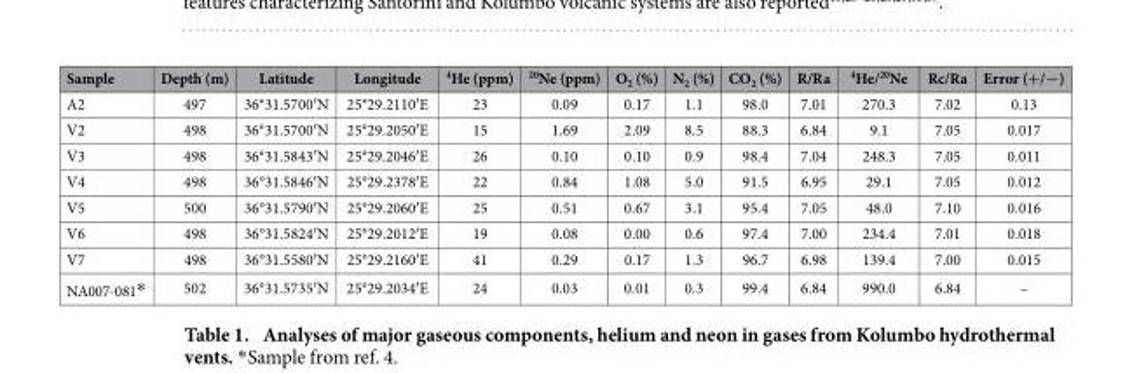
<table><thead><tr><td>Sample</td><td>Depth (m)</td><td>Latitude</td><td>Longitude</td><td><sup>4</sup>He (ppm)</td><td><sup>20</sup>Ne (ppm)</td><td>O<sub>2</sub> (%)</td><td>N<sub>2</sub> (%)</td><td>CO<sub>2</sub> (%)</td><td>R/Ra</td><td><sup>4</sup>He/<sup>20</sup>Ne</td><td>Rc/Ra</td><td>Error (+/−)</td></tr></thead><tbody><tr><td>A2</td><td>497</td><td>36°31.5700′ N</td><td>25°29.2110′ E</td><td>23</td><td>0.09</td><td>0.17</td><td>1.1</td><td>98.0</td><td>7.01</td><td>270.3</td><td>7.02</td><td>0.13</td></tr><tr><td>V2</td><td>498</td><td>36°31.5700′ N</td><td>25°29.2050′ E</td><td>15</td><td>1.69</td><td>2.09</td><td>8.5</td><td>88.3</td><td>6.84</td><td>9.1</td><td>7.05</td><td>0.017</td></tr><tr><td>V3</td><td>498</td><td>36°31.5843′ N</td><td>25°29.2046′ E</td><td>26</td><td>0.10</td><td>0.10</td><td>0.9</td><td>98.4</td><td>7.04</td><td>248.3</td><td>7.05</td><td>0.011</td></tr><tr><td>V4</td><td>498</td><td>36°31.5846′ N</td><td>25°29.2378′ E</td><td>22</td><td>0.84</td><td>1.08</td><td>5.0</td><td>91.5</td><td>6.95</td><td>29.1</td><td>7.05</td><td>0.012</td></tr><tr><td>V5</td><td>500</td><td>36°31.5790′ N</td><td>25°29.2060′ E</td><td>25</td><td>0.51</td><td>0.67</td><td>3.1</td><td>95.4</td><td>7.05</td><td>48.0</td><td>7.10</td><td>0.016</td></tr><tr><td>V6</td><td>498</td><td>36°31.5824′ N</td><td>25°29.2012′ E</td><td>19</td><td>0.08</td><td>0.00</td><td>0.6</td><td>97.4</td><td>7.00</td><td>234.4</td><td>7.01</td><td>0.018</td></tr><tr><td>V7</td><td>498</td><td>36°31.5580′ N</td><td>25°29.2160′ E</td><td>41</td><td>0.29</td><td>0.17</td><td>1.3</td><td>96.7</td><td>6.98</td><td>139.4</td><td>7.00</td><td>0.015</td></tr><tr><td>NA007-081*</td><td>502</td><td>36°31.5735′ N</td><td>25°29.2034′ E</td><td>24</td><td>0.03</td><td>0.01</td><td>0.3</td><td>99.4</td><td>6.84</td><td>990.0</td><td>6.84</td><td>–</td></tr></tbody></table>